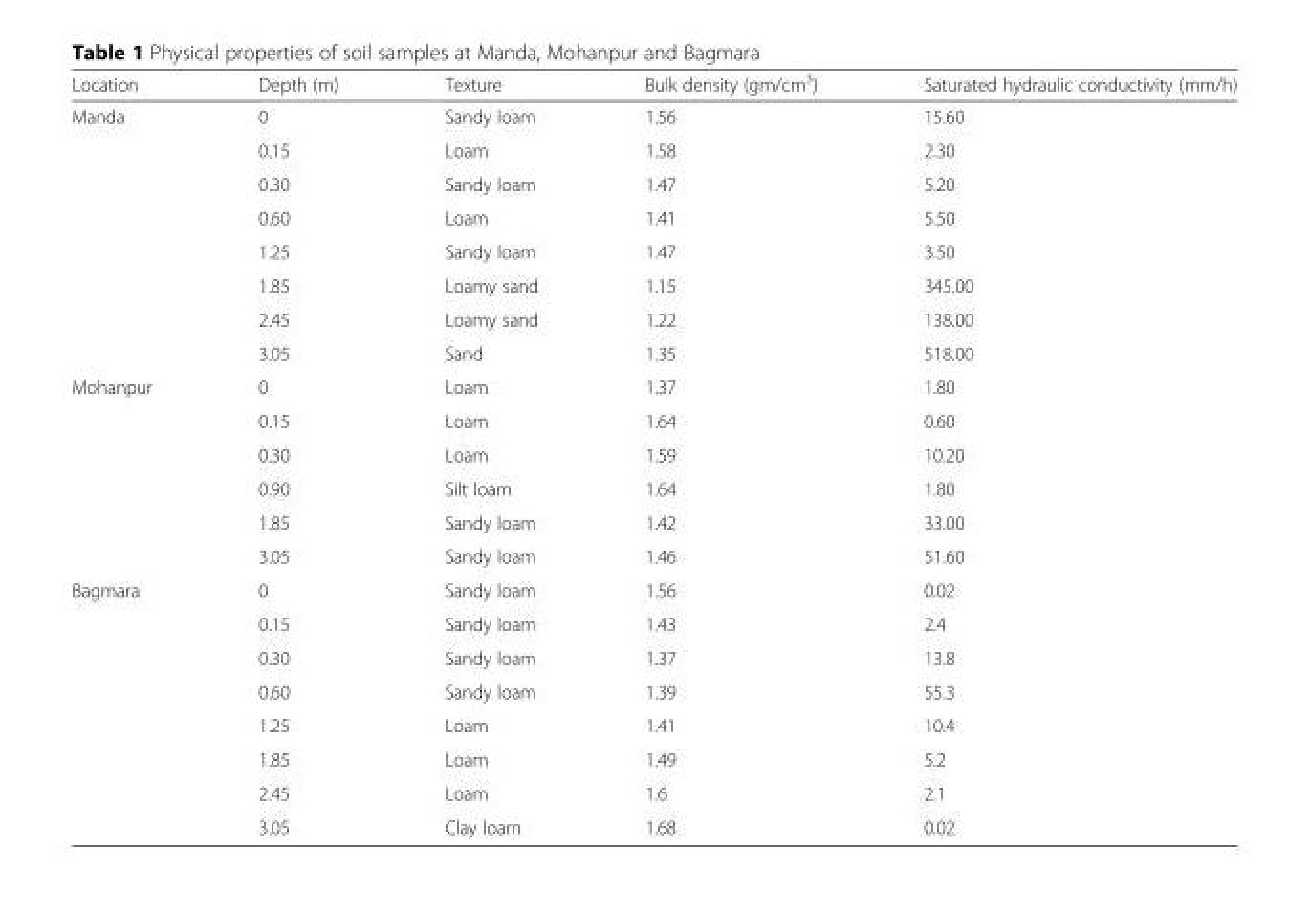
<table><thead><tr><td>Location</td><td>Depth (m)</td><td>Texture</td><td>Bulk density (gm/cm<sup>3</sup>)</td><td>Saturated hydraulic conductivity (mm/h)</td></tr></thead><tbody><tr><td rowspan="8">Manda</td><td>0</td><td>Sandy loam</td><td>1.56</td><td>15.60</td></tr><tr><td>0.15</td><td>Loam</td><td>1.58</td><td>2.30</td></tr><tr><td>0.30</td><td>Sandy loam</td><td>1.47</td><td>5.20</td></tr><tr><td>0.60</td><td>Loam</td><td>1.41</td><td>5.50</td></tr><tr><td>1.25</td><td>Sandy loam</td><td>1.47</td><td>3.50</td></tr><tr><td>1.85</td><td>Loamy sand</td><td>1.15</td><td>345.00</td></tr><tr><td>2.45</td><td>Loamy sand</td><td>1.22</td><td>138.00</td></tr><tr><td>3.05</td><td>Sand</td><td>1.35</td><td>518.00</td></tr><tr><td rowspan="6">Mohanpur</td><td>0</td><td>Loam</td><td>1.37</td><td>1.80</td></tr><tr><td>0.15</td><td>Loam</td><td>1.64</td><td>0.60</td></tr><tr><td>0.30</td><td>Loam</td><td>1.59</td><td>10.20</td></tr><tr><td>0.90</td><td>Silt loam</td><td>1.64</td><td>1.80</td></tr><tr><td>1.85</td><td>Sandy loam</td><td>1.42</td><td>33.00</td></tr><tr><td>3.05</td><td>Sandy loam</td><td>1.46</td><td>51.60</td></tr><tr><td rowspan="8">Bagmara</td><td>0</td><td>Sandy loam</td><td>1.56</td><td>0.02</td></tr><tr><td>0.15</td><td>Sandy loam</td><td>1.43</td><td>2.4</td></tr><tr><td>0.30</td><td>Sandy loam</td><td>1.37</td><td>13.8</td></tr><tr><td>0.60</td><td>Sandy loam</td><td>1.39</td><td>55.3</td></tr><tr><td>1.25</td><td>Loam</td><td>1.41</td><td>10.4</td></tr><tr><td>1.85</td><td>Loam</td><td>1.49</td><td>5.2</td></tr><tr><td>2.45</td><td>Loam</td><td>1.6</td><td>2.1</td></tr><tr><td>3.05</td><td>Clay loam</td><td>1.68</td><td>0.02</td></tr></tbody></table>